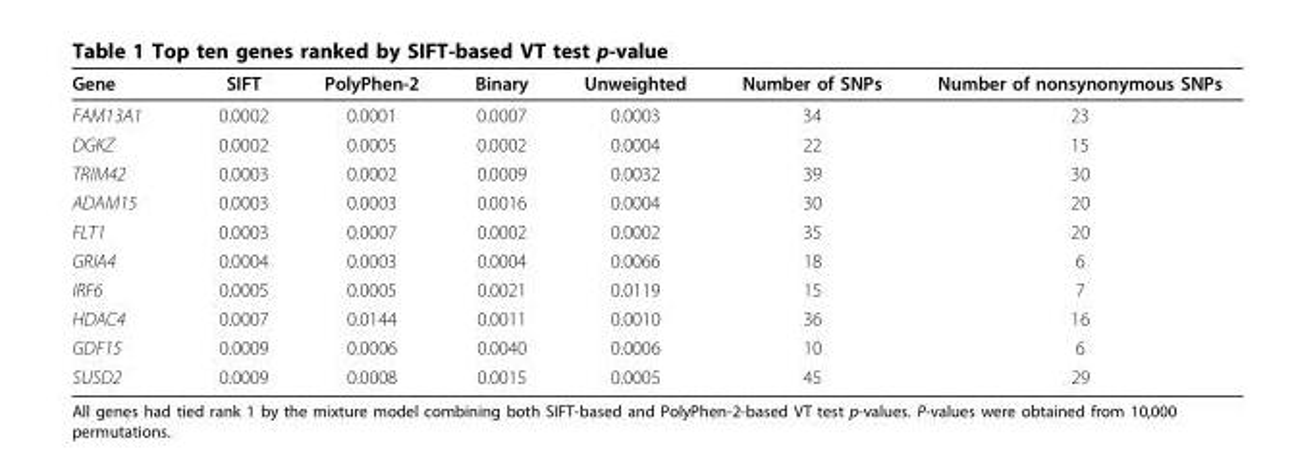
<table><thead><tr><td>Gene</td><td>SIFT</td><td>PolyPhen-2</td><td>Binary</td><td>Unweighted</td><td>Number of SNPs</td><td>Number of nonsynonymous SNPs</td></tr></thead><tbody><tr><td>FAM13A1</td><td>0.0002</td><td>0.0001</td><td>0.0007</td><td>0.0003</td><td>34</td><td>23</td></tr><tr><td>DGKZ</td><td>0.0002</td><td>0.0005</td><td>0.0002</td><td>0.0004</td><td>22</td><td>15</td></tr><tr><td>TRIM42</td><td>0.0003</td><td>0.0002</td><td>0.0009</td><td>0.0032</td><td>39</td><td>30</td></tr><tr><td>ADAM15</td><td>0.0003</td><td>0.0003</td><td>0.0016</td><td>0.0004</td><td>30</td><td>20</td></tr><tr><td>FLT1</td><td>0.0003</td><td>0.0007</td><td>0.0002</td><td>0.0002</td><td>35</td><td>20</td></tr><tr><td>GRIA4</td><td>0.0004</td><td>0.0003</td><td>0.0004</td><td>0.0066</td><td>18</td><td>6</td></tr><tr><td>IRF6</td><td>0.0005</td><td>0.0005</td><td>0.0021</td><td>0.0119</td><td>15</td><td>7</td></tr><tr><td>HDAC4</td><td>0.0007</td><td>0.0144</td><td>0.0011</td><td>0.0010</td><td>36</td><td>16</td></tr><tr><td>GDF15</td><td>0.0009</td><td>0.0006</td><td>0.0040</td><td>0.0006</td><td>10</td><td>6</td></tr><tr><td>SUSD2</td><td>0.0009</td><td>0.0008</td><td>0.0015</td><td>0.0005</td><td>45</td><td>29</td></tr></tbody></table>